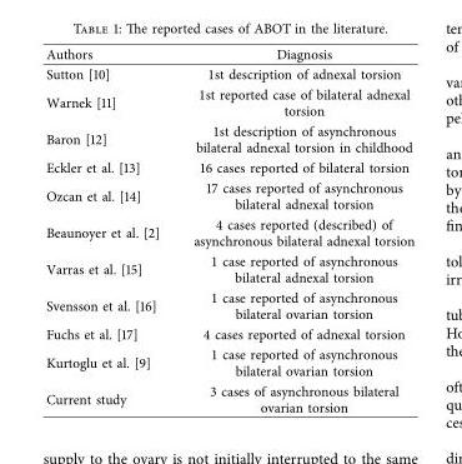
<table><thead><tr><td>Authors</td><td>Diagnosis</td></tr></thead><tbody><tr><td>Sutton [10]</td><td>1st description of adnexal torsion</td></tr><tr><td>Warnek [11]</td><td>1st reported case of bilateral adnexal torsion</td></tr><tr><td>Baron [12]</td><td>1st description of asynchronous bilateral adnexal torsion in childhood</td></tr><tr><td>Eckler et al. [13]</td><td>16 cases reported of bilateral torsion</td></tr><tr><td>Ozcan et al. [14]</td><td>17 cases reported of asynchronous bilateral adnexal torsion</td></tr><tr><td>Beaunoyer et al. [2]</td><td>4 cases reported (described) of asynchronous bilateral adnexal torsion</td></tr><tr><td>Varras et al. [15]</td><td>1 case reported of asynchronous bilateral adnexal torsion</td></tr><tr><td>Svensson et al. [16]</td><td>1 case reported of asynchronous bilateral ovarian torsion</td></tr><tr><td>Fuchs et al. [17]</td><td>4 cases reported of adnexal torsion</td></tr><tr><td>Kurtoglu et al. [9]</td><td>1 case reported of asynchronous bilateral ovarian torsion</td></tr><tr><td>Current study</td><td>3 cases of asynchronous bilateral ovarian torsion</td></tr></tbody></table>